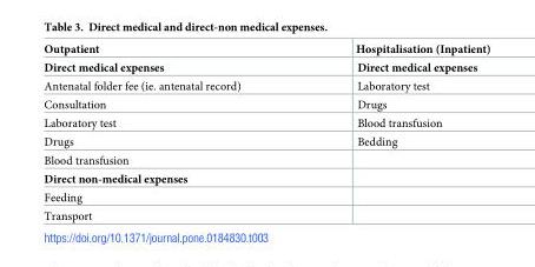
<table><thead><tr><td>Outpatient</td><td>Hospitalisation (Inpatient)</td></tr></thead><tbody><tr><td>Direct medical expenses</td><td>Direct medical expenses</td></tr><tr><td>Antenatal folder fee (ie. antenatal record)</td><td>Laboratory test</td></tr><tr><td>Consultation</td><td>Drugs</td></tr><tr><td>Laboratory test</td><td>Blood transfusion</td></tr><tr><td>Drugs</td><td>Bedding</td></tr><tr><td colspan="2">Blood transfusion</td></tr><tr><td colspan="2">Direct non-medical expenses</td></tr><tr><td colspan="2">Feeding</td></tr><tr><td>Transport</td><td></td></tr></tbody></table>